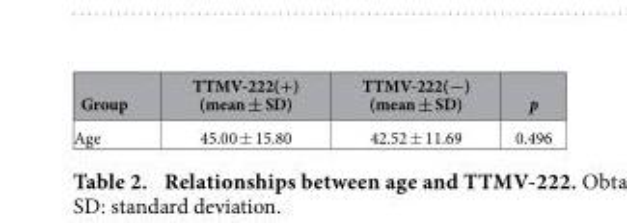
<table><thead><tr><td>Group</td><td>TTMV-222(+) (mean ± SD)</td><td>TTMV-222(−) (mean ± SD)</td><td>p</td></tr></thead><tbody><tr><td>Age</td><td>45.00 ± 15.80</td><td>42.52 ± 11.69</td><td>0.496</td></tr></tbody></table>